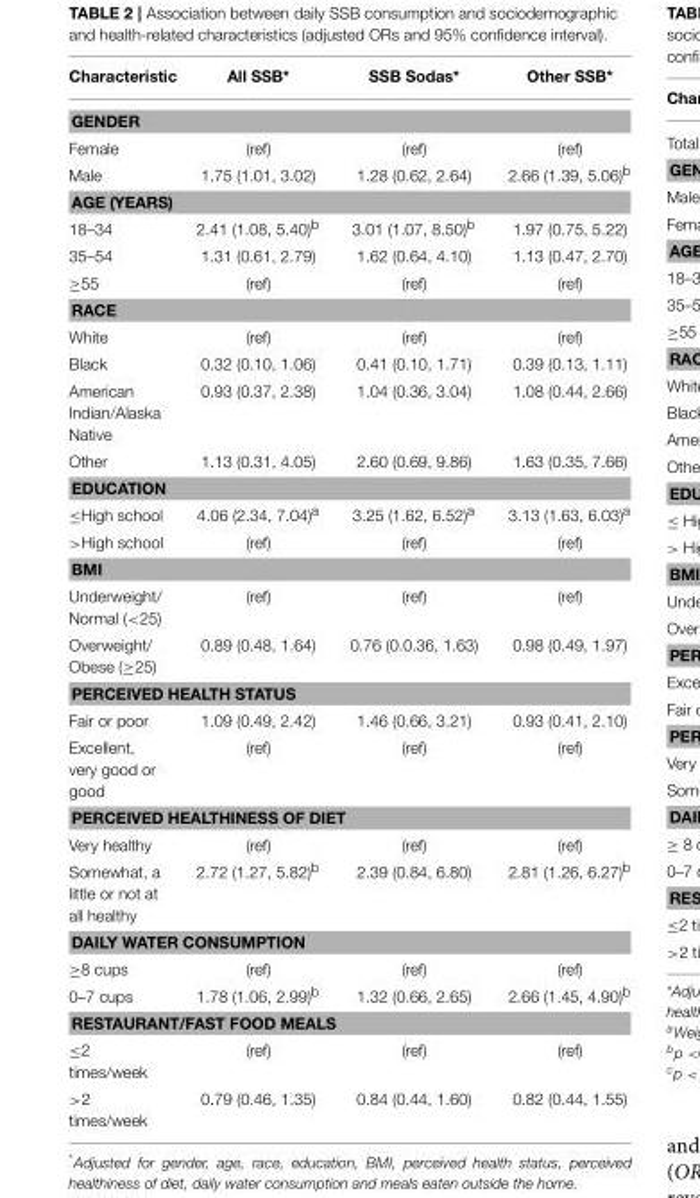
<table><thead><tr><td>Characteristic</td><td>All SSB*</td><td>SSB Sodas*</td><td>Other SSB*</td></tr></thead><tbody><tr><td colspan="4">GENDER</td></tr><tr><td>Female</td><td>(ref)</td><td>(ref)</td><td>(ref)</td></tr><tr><td>Male</td><td>1.75 (1.01, 3.02)</td><td>1.28 (0.62, 2.64)</td><td>2.66 (1.39, 5.06)<sup>b</sup></td></tr><tr><td colspan="4">AGE (YEARS)</td></tr><tr><td>18–34</td><td>2.41 (1.08, 5.40)<sup>b</sup></td><td>3.01 (1.07, 8.50)<sup>b</sup></td><td>1.97 (0.75, 5.22)</td></tr><tr><td>35–54</td><td>1.31 (0.61, 2.79)</td><td>1.62 (0.64, 4.10)</td><td>1.13 (0.47, 2.70)</td></tr><tr><td>≥55</td><td>(ref)</td><td>(ref)</td><td>(ref)</td></tr><tr><td colspan="4">RACE</td></tr><tr><td>White</td><td>(ref)</td><td>(ref)</td><td>(ref)</td></tr><tr><td>Black</td><td>0.32 (0.10, 1.06)</td><td>0.41 (0.10, 1.71)</td><td>0.39 (0.13, 1.11)</td></tr><tr><td>American Indian/Alaska Native</td><td>0.93 (0.37, 2.38)</td><td>1.04 (0.36, 3.04)</td><td>1.08 (0.44, 2.66)</td></tr><tr><td>Other</td><td>1.13 (0.31, 4.05)</td><td>2.60 (0.69, 9.86)</td><td>1.63 (0.35, 7.66)</td></tr><tr><td colspan="4">EDUCATION</td></tr><tr><td>≤High school</td><td>4.06 (2.34, 7.04)<sup>a</sup></td><td>3.25 (1.62, 6.52)<sup>a</sup></td><td>3.13 (1.63, 6.03)<sup>a</sup></td></tr><tr><td>&gt;High school</td><td>(ref)</td><td>(ref)</td><td>(ref)</td></tr><tr><td colspan="4">BMI</td></tr><tr><td>Underweight/ Normal (&lt;25)</td><td>(ref)</td><td>(ref)</td><td>(ref)</td></tr><tr><td>Overweight/ Obese (≥25)</td><td>0.89 (0.48, 1.64)</td><td>0.76 (0.0.36, 1.63)</td><td>0.98 (0.49, 1.97)</td></tr><tr><td colspan="4">PERCEIVED HEALTH STATUS</td></tr><tr><td>Fair or poor</td><td>1.09 (0.49, 2.42)</td><td>1.46 (0.66, 3.21)</td><td>0.93 (0.41, 2.10)</td></tr><tr><td>Excellent, very good or good</td><td>(ref)</td><td>(ref)</td><td>(ref)</td></tr><tr><td colspan="4">PERCEIVED HEALTHINESS OF DIET</td></tr><tr><td>Very healthy</td><td>(ref)</td><td>(ref)</td><td>(ref)</td></tr><tr><td>Somewhat, a little or not at all healthy</td><td>2.72 (1.27, 5.82)<sup>b</sup></td><td>2.39 (0.84, 6.80)</td><td>2.81 (1.26, 6.27)<sup>b</sup></td></tr><tr><td colspan="4">DAILY WATER CONSUMPTION</td></tr><tr><td>≥8 cups</td><td>(ref)</td><td>(ref)</td><td>(ref)</td></tr><tr><td>0–7 cups</td><td>1.78 (1.06, 2.99)<sup>b</sup></td><td>1.32 (0.66, 2.65)</td><td>2.66 (1.45, 4.90)<sup>b</sup></td></tr><tr><td colspan="4">RESTAURANT/FAST FOOD MEALS</td></tr><tr><td>≤2 times/week</td><td>(ref)</td><td>(ref)</td><td>(ref)</td></tr><tr><td>&gt;2 times/week</td><td>0.79 (0.46, 1.35)</td><td>0.84 (0.44, 1.60)</td><td>0.82 (0.44, 1.55)</td></tr></tbody></table>